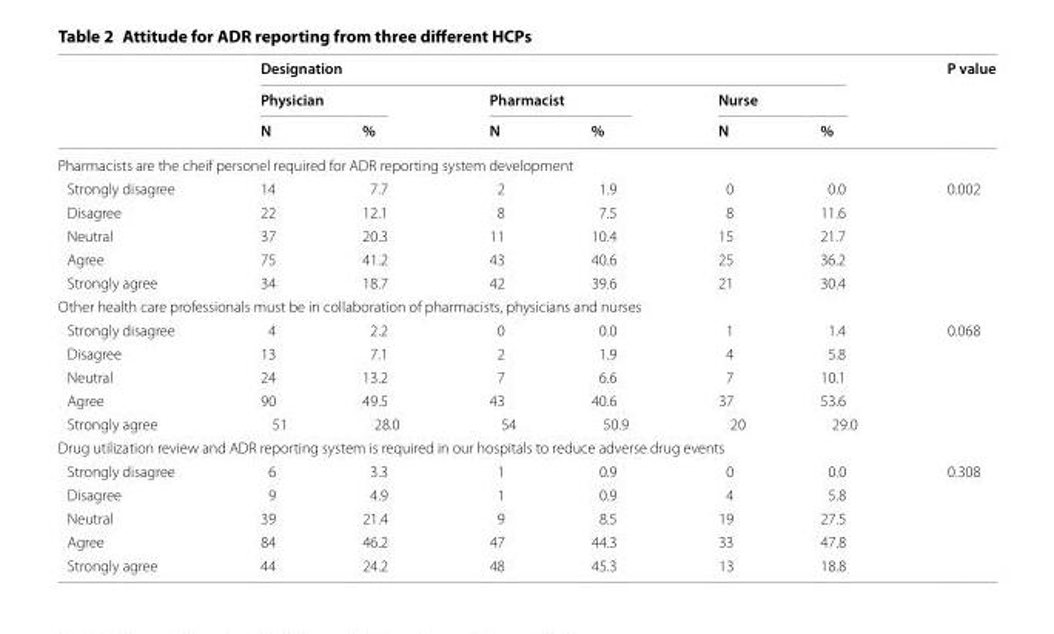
<table><thead><tr><td rowspan="3"></td><td colspan="6">Designation</td><td rowspan="3">P value</td></tr><tr><td colspan="2">Physician</td><td colspan="2">Pharmacist</td><td colspan="2">Nurse</td></tr><tr><td>N</td><td>%</td><td>N</td><td>%</td><td>N</td><td>%</td></tr></thead><tbody><tr><td colspan="8">Pharmacists are the cheif personel required for ADR reporting system development</td></tr><tr><td>Strongly disagree</td><td>14</td><td>7.7</td><td>2</td><td>1.9</td><td>0</td><td>0.0</td><td>0.002</td></tr><tr><td>Disagree</td><td>22</td><td>12.1</td><td>8</td><td>7.5</td><td>8</td><td>11.6</td><td></td></tr><tr><td>Neutral</td><td>37</td><td>20.3</td><td>11</td><td>10.4</td><td>15</td><td>21.7</td><td></td></tr><tr><td>Agree</td><td>75</td><td>41.2</td><td>43</td><td>40.6</td><td>25</td><td>36.2</td><td></td></tr><tr><td>Strongly agree</td><td>34</td><td>18.7</td><td>42</td><td>39.6</td><td>21</td><td>30.4</td><td></td></tr><tr><td colspan="8">Other health care professionals must be in collaboration of pharmacists, physicians and nurses</td></tr><tr><td>Strongly disagree</td><td>4</td><td>2.2</td><td>0</td><td>0.0</td><td>1</td><td>1.4</td><td>0.068</td></tr><tr><td>Disagree</td><td>13</td><td>7.1</td><td>2</td><td>1.9</td><td>4</td><td>5.8</td><td></td></tr><tr><td>Neutral</td><td>24</td><td>13.2</td><td>7</td><td>6.6</td><td>7</td><td>10.1</td><td></td></tr><tr><td>Agree</td><td>90</td><td>49.5</td><td>43</td><td>40.6</td><td>37</td><td>53.6</td><td></td></tr><tr><td>Strongly agree</td><td>51</td><td>28.0</td><td>54</td><td>50.9</td><td>20</td><td>29.0</td><td></td></tr><tr><td colspan="8">Drug utilization review and ADR reporting system is required in our hospitals to reduce adverse drug events</td></tr><tr><td>Strongly disagree</td><td>6</td><td>3.3</td><td>1</td><td>0.9</td><td>0</td><td>0.0</td><td>0.308</td></tr><tr><td>Disagree</td><td>9</td><td>4.9</td><td>1</td><td>0.9</td><td>4</td><td>5.8</td><td></td></tr><tr><td>Neutral</td><td>39</td><td>21.4</td><td>9</td><td>8.5</td><td>19</td><td>27.5</td><td></td></tr><tr><td>Agree</td><td>84</td><td>46.2</td><td>47</td><td>44.3</td><td>33</td><td>47.8</td><td></td></tr><tr><td>Strongly agree</td><td>44</td><td>24.2</td><td>48</td><td>45.3</td><td>13</td><td>18.8</td><td></td></tr></tbody></table>